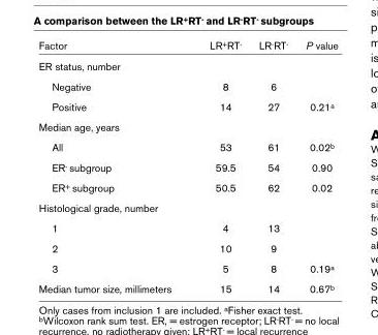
<table><thead><tr><td>Factor</td><td>LR<sup>+</sup>RT<sup>-</sup></td><td>LR<sup>-</sup>RT<sup>-</sup></td><td>P value</td></tr></thead><tbody><tr><td colspan="4">ER status, number</td></tr><tr><td>Negative</td><td>8</td><td>6</td><td></td></tr><tr><td>Positive</td><td>14</td><td>27</td><td>0.21<sup>a</sup></td></tr><tr><td colspan="4">Median age, years</td></tr><tr><td>All</td><td>53</td><td>61</td><td>0.02<sup>b</sup></td></tr><tr><td>ER<sup>-</sup> subgroup</td><td>59.5</td><td>54</td><td>0.90</td></tr><tr><td>ER<sup>+</sup> subgroup</td><td>50.5</td><td>62</td><td>0.02</td></tr><tr><td colspan="4">Histological grade, number</td></tr><tr><td>1</td><td>4</td><td>13</td><td></td></tr><tr><td>2</td><td>10</td><td>9</td><td></td></tr><tr><td>3</td><td>5</td><td>8</td><td>0.19<sup>a</sup></td></tr><tr><td>Median tumor size, millimeters</td><td>15</td><td>14</td><td>0.67<sup>b</sup></td></tr></tbody></table>